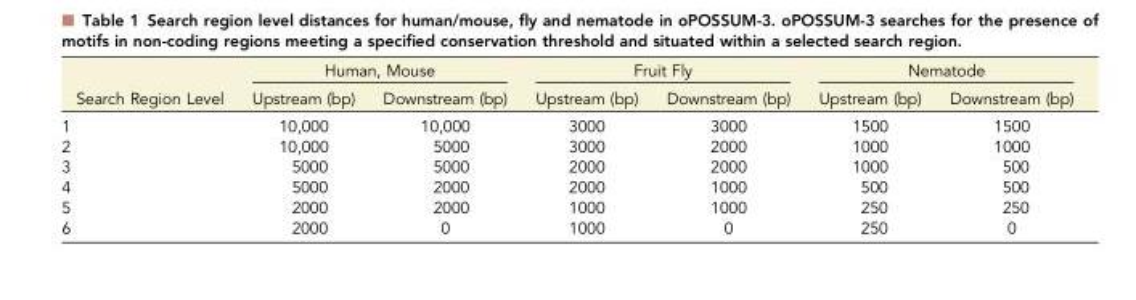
<table><thead><tr><td rowspan="2">Search Region Level</td><td colspan="2">Human, Mouse</td><td colspan="2">Fruit Fly</td><td colspan="2">Nematode</td></tr><tr><td>Upstream (bp)</td><td>Downstream (bp)</td><td>Upstream (bp)</td><td>Downstream (bp)</td><td>Upstream (bp)</td><td>Downstream (bp)</td></tr></thead><tbody><tr><td>1</td><td>10,000</td><td>10,000</td><td>3000</td><td>3000</td><td>1500</td><td>1500</td></tr><tr><td>2</td><td>10,000</td><td>5000</td><td>3000</td><td>2000</td><td>1000</td><td>1000</td></tr><tr><td>3</td><td>5000</td><td>5000</td><td>2000</td><td>2000</td><td>1000</td><td>500</td></tr><tr><td>4</td><td>5000</td><td>2000</td><td>2000</td><td>1000</td><td>500</td><td>500</td></tr><tr><td>5</td><td>2000</td><td>2000</td><td>1000</td><td>1000</td><td>250</td><td>250</td></tr><tr><td>6</td><td>2000</td><td>0</td><td>1000</td><td>0</td><td>250</td><td>0</td></tr></tbody></table>